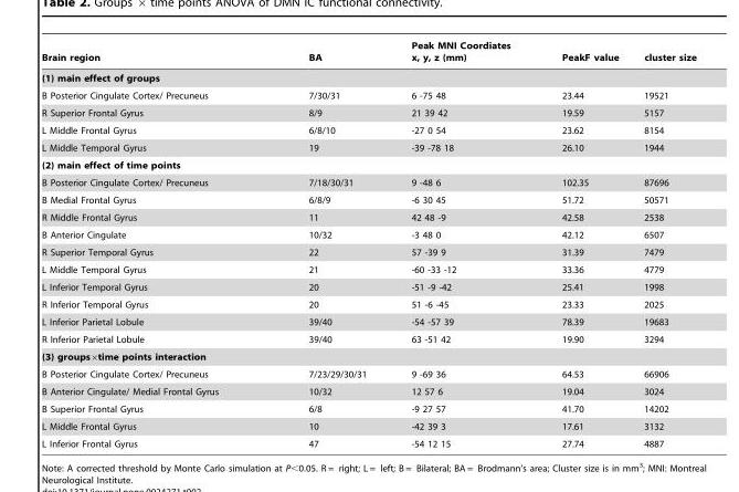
<table><thead><tr><td>Brain region</td><td>BA</td><td>Peak MNI Coordiates x, y, z (mm)</td><td>PeakF value</td><td>cluster size</td></tr></thead><tbody><tr><td colspan="5">(1) main effect of groups</td></tr><tr><td>B Posterior Cingulate Cortex/ Precuneus</td><td>7/30/31</td><td>6 -75 48</td><td>23.44</td><td>19521</td></tr><tr><td>R Superior Frontal Gyrus</td><td>8/9</td><td>21 39 42</td><td>19.59</td><td>5157</td></tr><tr><td>L Middle Frontal Gyrus</td><td>6/8/10</td><td>-27 0 54</td><td>23.62</td><td>8154</td></tr><tr><td>L Middle Temporal Gyrus</td><td>19</td><td>-39 -78 18</td><td>26.10</td><td>1944</td></tr><tr><td colspan="5">(2) main effect of time points</td></tr><tr><td>B Posterior Cingulate Cortex/ Precuneus</td><td>7/18/30/31</td><td>9 -48 6</td><td>102.35</td><td>87696</td></tr><tr><td>B Medial Frontal Gyrus</td><td>6/8/9</td><td>-6 30 45</td><td>51.72</td><td>50571</td></tr><tr><td>R Middle Frontal Gyrus</td><td>11</td><td>42 48 -9</td><td>42.58</td><td>2538</td></tr><tr><td>B Anterior Cingulate</td><td>10/32</td><td>-3 48 0</td><td>42.12</td><td>6507</td></tr><tr><td>R Superior Temporal Gyrus</td><td>22</td><td>57 -39 9</td><td>31.39</td><td>7479</td></tr><tr><td>L Middle Temporal Gyrus</td><td>21</td><td>-60 -33 -12</td><td>33.36</td><td>4779</td></tr><tr><td>L Inferior Temporal Gyrus</td><td>20</td><td>-51 -9 -42</td><td>25.41</td><td>1998</td></tr><tr><td>R Inferior Temporal Gyrus</td><td>20</td><td>51 -6 -45</td><td>23.33</td><td>2025</td></tr><tr><td>L Inferior Parietal Lobule</td><td>39/40</td><td>-54 -57 39</td><td>78.39</td><td>19683</td></tr><tr><td>R Inferior Parietal Lobule</td><td>39/40</td><td>63 -51 42</td><td>19.90</td><td>3294</td></tr><tr><td colspan="5">(3) groups×time points interaction</td></tr><tr><td>B Posterior Cingulate Cortex/ Precuneus</td><td>7/23/29/30/31</td><td>9 -69 36</td><td>64.53</td><td>66906</td></tr><tr><td>B Anterior Cingulate/ Medial Frontal Gyrus</td><td>10/32</td><td>12 57 6</td><td>19.04</td><td>3024</td></tr><tr><td>B Superior Frontal Gyrus</td><td>6/8</td><td>-9 27 57</td><td>41.70</td><td>14202</td></tr><tr><td>L Middle Frontal Gyrus</td><td>10</td><td>-42 39 3</td><td>17.61</td><td>3132</td></tr><tr><td>L Inferior Frontal Gyrus</td><td>47</td><td>-54 12 15</td><td>27.74</td><td>4887</td></tr></tbody></table>